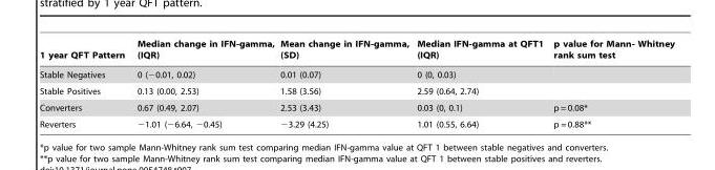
<table><thead><tr><td>1 year QFT Pattern</td><td>Median change in IFN-gamma, (IQR)</td><td>Mean change in IFN-gamma, (SD)</td><td>Median IFN-gamma at QFT1 (IQR)</td><td>p value for Mann- Whitney rank sum test</td></tr></thead><tbody><tr><td>Stable Negatives</td><td>0 (−0.01, 0.02)</td><td>0.01 (0.07)</td><td>0 (0, 0.03)</td><td></td></tr><tr><td>Stable Positives</td><td>0.13 (0.00, 2.53)</td><td>1.58 (3.56)</td><td>2.59 (0.64, 2.74)</td><td></td></tr><tr><td>Converters</td><td>0.67 (0.49, 2.07)</td><td>2.53 (3.43)</td><td>0.03 (0, 0.1)</td><td>p = 0.08*</td></tr><tr><td>Reverters</td><td>−1.01 (−6.64, −0.45)</td><td>−3.29 (4.25)</td><td>1.01 (0.55, 6.64)</td><td>p = 0.88**</td></tr></tbody></table>